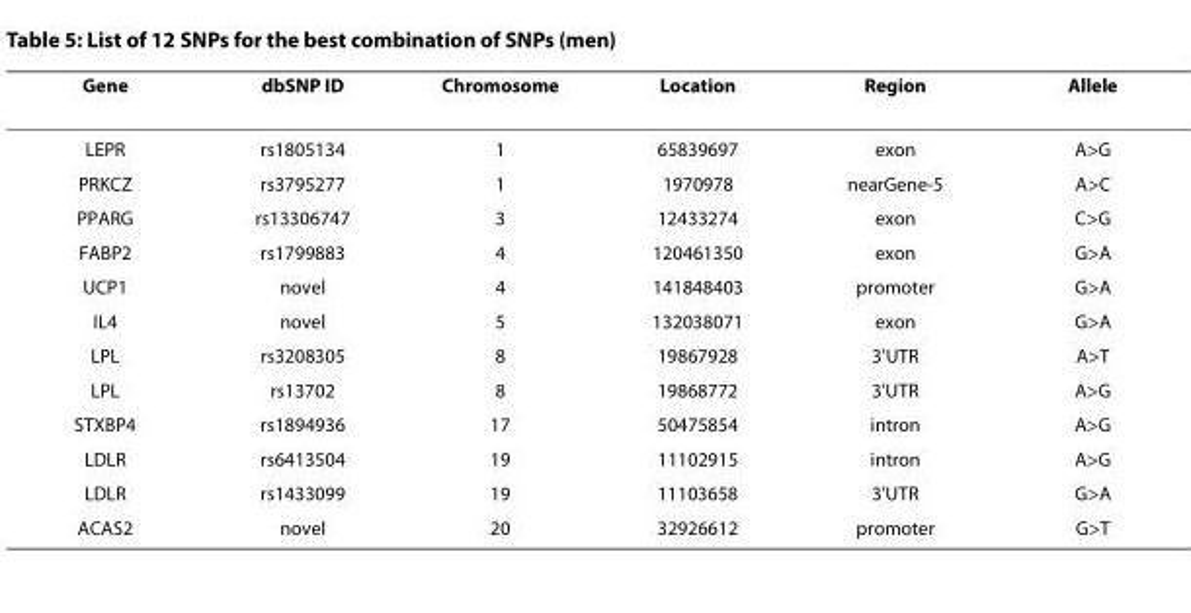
<table><thead><tr><td>Gene</td><td>dbSNP ID</td><td>Chromosome</td><td>Location</td><td>Region</td><td>Allele</td></tr></thead><tbody><tr><td>LEPR</td><td>rs1805134</td><td>1</td><td>65839697</td><td>exon</td><td>A&gt;G</td></tr><tr><td>PRKCZ</td><td>rs3795277</td><td>1</td><td>1970978</td><td>nearGene-5</td><td>A&gt;C</td></tr><tr><td>PPARG</td><td>rs13306747</td><td>3</td><td>12433274</td><td>exon</td><td>C&gt;G</td></tr><tr><td>FABP2</td><td>rs1799883</td><td>4</td><td>120461350</td><td>exon</td><td>G&gt;A</td></tr><tr><td>UCP1</td><td>novel</td><td>4</td><td>141848403</td><td>promoter</td><td>G&gt;A</td></tr><tr><td>IL4</td><td>novel</td><td>5</td><td>132038071</td><td>exon</td><td>G&gt;A</td></tr><tr><td>LPL</td><td>rs3208305</td><td>8</td><td>19867928</td><td>3&#x27;UTR</td><td>A&gt;T</td></tr><tr><td>LPL</td><td>rs13702</td><td>8</td><td>19868772</td><td>3&#x27;UTR</td><td>A&gt;G</td></tr><tr><td>STXBP4</td><td>rs1894936</td><td>17</td><td>50475854</td><td>intron</td><td>A&gt;G</td></tr><tr><td>LDLR</td><td>rs6413504</td><td>19</td><td>11102915</td><td>intron</td><td>A&gt;G</td></tr><tr><td>LDLR</td><td>rs1433099</td><td>19</td><td>11103658</td><td>3&#x27;UTR</td><td>G&gt;A</td></tr><tr><td>ACAS2</td><td>novel</td><td>20</td><td>32926612</td><td>promoter</td><td>G&gt;T</td></tr></tbody></table>